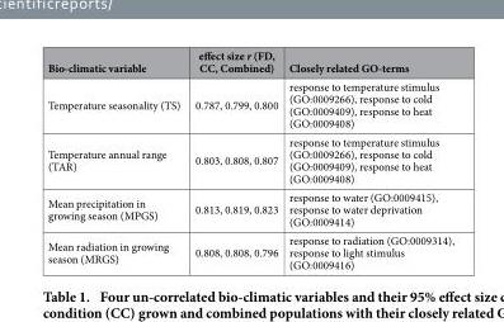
<table><thead><tr><td>Bio-climatic variable</td><td>effect size r (FD, CC, Combined)</td><td>Closely related GO-terms</td></tr></thead><tbody><tr><td>Temperature seasonality (TS)</td><td>0.787, 0.799, 0.800</td><td>response to temperature stimulus (GO:0009266), response to cold (GO:0009409), response to heat (GO:0009408)</td></tr><tr><td>Temperature annual range (TAR)</td><td>0.803, 0.808, 0.807</td><td>response to temperature stimulus (GO:0009266), response to cold (GO:0009409), response to heat (GO:0009408)</td></tr><tr><td>Mean precipitation in growing season (MPGS)</td><td>0.813, 0.819, 0.823</td><td>response to water (GO:0009415), response to water deprivation (GO:0009414)</td></tr><tr><td>Mean radiation in growing season (MRGS)</td><td>0.808, 0.808, 0.796</td><td>response to radiation (GO:0009314), response to light stimulus (GO:0009416)</td></tr></tbody></table>